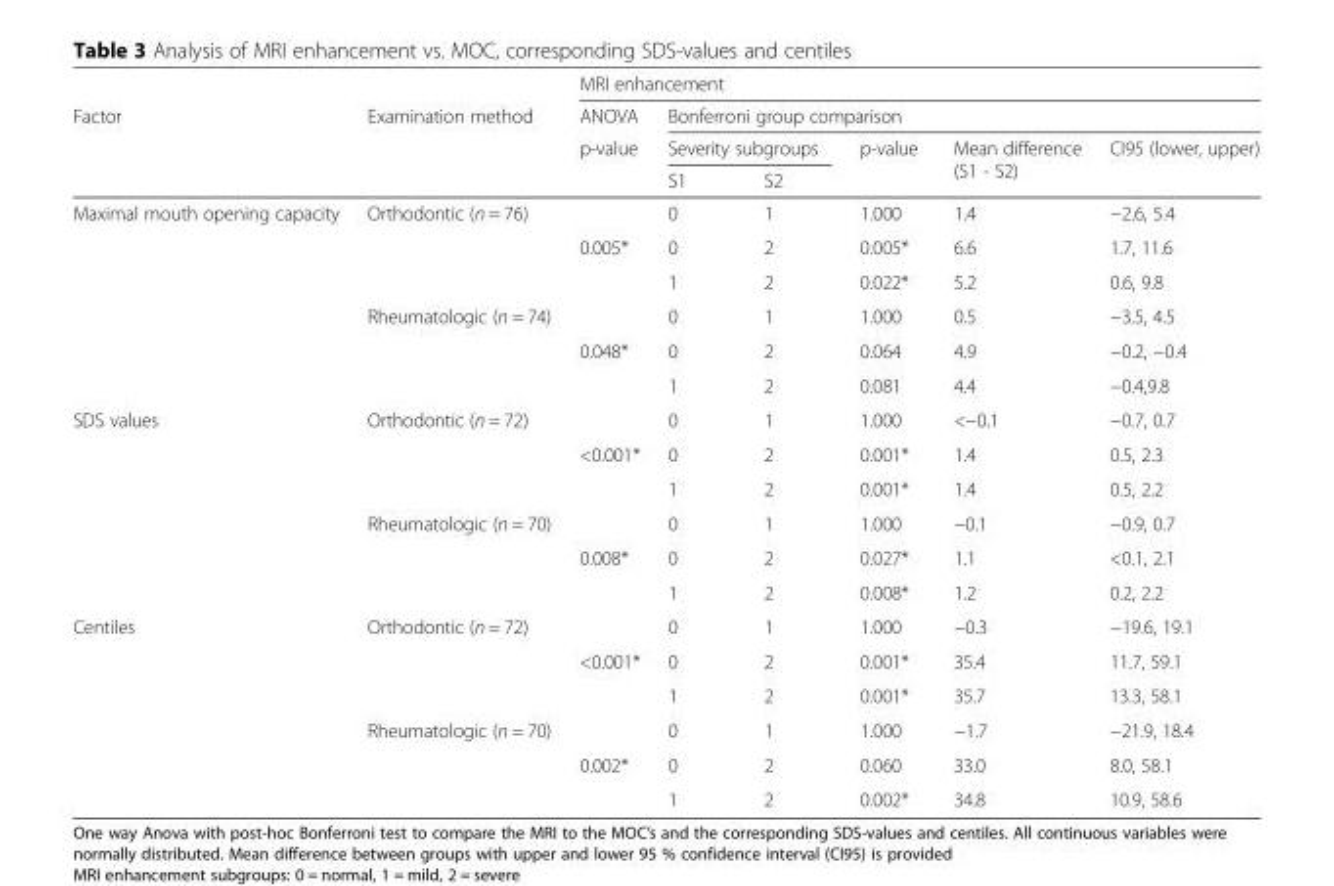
<table><thead><tr><td rowspan="4">Factor</td><td rowspan="4">Examination method</td><td colspan="6">MRI enhancement</td></tr><tr><td rowspan="3">ANOVA p-value</td><td colspan="5">Bonferroni group comparison</td></tr><tr><td colspan="2">Severity subgroups</td><td rowspan="2">p-value</td><td rowspan="2">Mean difference (S1 - S2)</td><td rowspan="2">CI95 (lower, upper)</td></tr><tr><td>S1</td><td>S2</td></tr></thead><tbody><tr><td rowspan="6">Maximal mouth opening capacity</td><td rowspan="3">Orthodontic (n = 76)</td><td></td><td>0</td><td>1</td><td>1.000</td><td>1.4</td><td>−2.6, 5.4</td></tr><tr><td>0.005*</td><td>0</td><td>2</td><td>0.005*</td><td>6.6</td><td>1.7, 11.6</td></tr><tr><td></td><td>1</td><td>2</td><td>0.022*</td><td>5.2</td><td>0.6, 9.8</td></tr><tr><td rowspan="3">Rheumatologic (n = 74)</td><td></td><td>0</td><td>1</td><td>1.000</td><td>0.5</td><td>−3.5, 4.5</td></tr><tr><td>0.048*</td><td>0</td><td>2</td><td>0.064</td><td>4.9</td><td>−0.2, −0.4</td></tr><tr><td></td><td>1</td><td>2</td><td>0.081</td><td>4.4</td><td>−0.4,9.8</td></tr><tr><td rowspan="6">SDS values</td><td rowspan="3">Orthodontic (n = 72)</td><td></td><td>0</td><td>1</td><td>1.000</td><td>&lt;−0.1</td><td>−0.7, 0.7</td></tr><tr><td>&lt;0.001*</td><td>0</td><td>2</td><td>0.001*</td><td>1.4</td><td>0.5, 2.3</td></tr><tr><td></td><td>1</td><td>2</td><td>0.001*</td><td>1.4</td><td>0.5, 2.2</td></tr><tr><td rowspan="3">Rheumatologic (n = 70)</td><td></td><td>0</td><td>1</td><td>1.000</td><td>−0.1</td><td>−0.9, 0.7</td></tr><tr><td>0.008*</td><td>0</td><td>2</td><td>0.027*</td><td>1.1</td><td>&lt;0.1, 2.1</td></tr><tr><td></td><td>1</td><td>2</td><td>0.008*</td><td>1.2</td><td>0.2, 2.2</td></tr><tr><td rowspan="6">Centiles</td><td rowspan="3">Orthodontic (n = 72)</td><td></td><td>0</td><td>1</td><td>1.000</td><td>−0.3</td><td>−19.6, 19.1</td></tr><tr><td>&lt;0.001*</td><td>0</td><td>2</td><td>0.001*</td><td>35.4</td><td>11.7, 59.1</td></tr><tr><td></td><td>1</td><td>2</td><td>0.001*</td><td>35.7</td><td>13.3, 58.1</td></tr><tr><td rowspan="3">Rheumatologic (n = 70)</td><td></td><td>0</td><td>1</td><td>1.000</td><td>−1.7</td><td>−21.9, 18.4</td></tr><tr><td>0.002*</td><td>0</td><td>2</td><td>0.060</td><td>33.0</td><td>8.0, 58.1</td></tr><tr><td></td><td>1</td><td>2</td><td>0.002*</td><td>34.8</td><td>10.9, 58.6</td></tr></tbody></table>